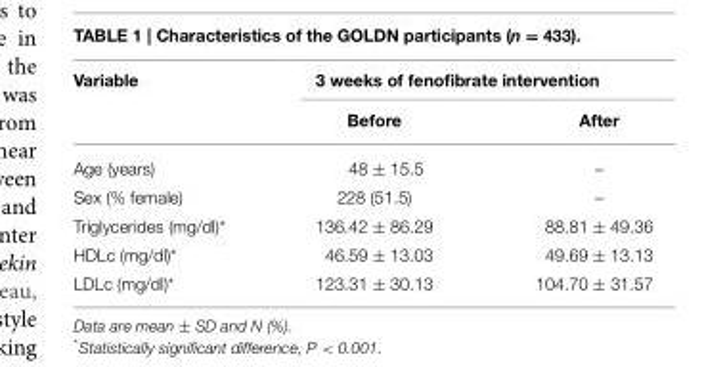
<table><thead><tr><td rowspan="2">Variable</td><td colspan="2">3 weeks of fenofibrate intervention</td></tr><tr><td>Before</td><td>After</td></tr></thead><tbody><tr><td>Age (years)</td><td>48 ± 15.5</td><td>–</td></tr><tr><td>Sex (% female)</td><td>228 (51.5)</td><td>–</td></tr><tr><td>Triglycerides (mg/dl)*</td><td>136.42 ± 86.29</td><td>88.81 ± 49.36</td></tr><tr><td>HDLc (mg/dl)*</td><td>46.59 ± 13.03</td><td>49.69 ± 13.13</td></tr><tr><td>LDLc (mg/dl)*</td><td>123.31 ± 30.13</td><td>104.70 ± 31.57</td></tr></tbody></table>